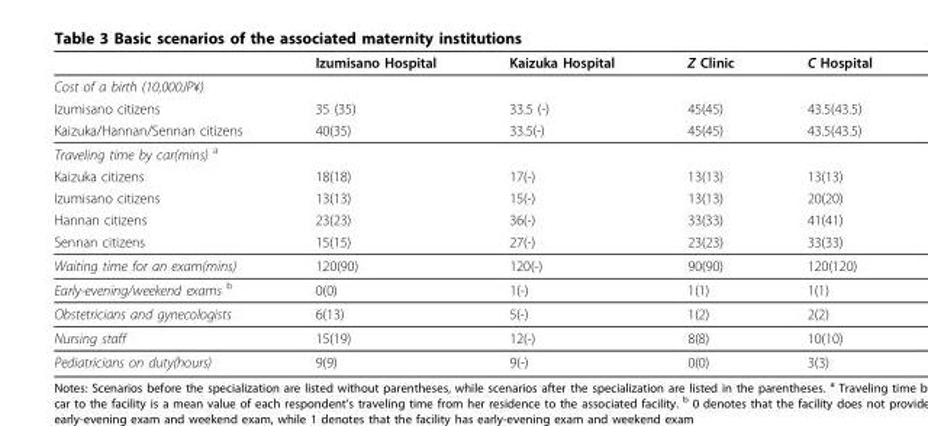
<table><thead><tr><td></td><td>Izumisano Hospital</td><td>Kaizuka Hospital</td><td>Z Clinic</td><td>C Hospital</td></tr></thead><tbody><tr><td colspan="5">Cost of a birth (10,000JP¥)</td></tr><tr><td>Izumisano citizens</td><td>35 (35)</td><td>33.5 (-)</td><td>45(45)</td><td>43.5(43.5)</td></tr><tr><td>Kaizuka/Hannan/Sennan citizens</td><td>40(35)</td><td>33.5(-)</td><td>45(45)</td><td>43.5(43.5)</td></tr><tr><td colspan="5">Traveling time by car(mins) <sup>a</sup></td></tr><tr><td>Kaizuka citizens</td><td>18(18)</td><td>17(-)</td><td>13(13)</td><td>13(13)</td></tr><tr><td>Izumisano citizens</td><td>13(13)</td><td>15(-)</td><td>13(13)</td><td>20(20)</td></tr><tr><td>Hannan citizens</td><td>23(23)</td><td>36(-)</td><td>33(33)</td><td>41(41)</td></tr><tr><td>Sennan citizens</td><td>15(15)</td><td>27(-)</td><td>23(23)</td><td>33(33)</td></tr><tr><td>Waiting time for an exam(mins)</td><td>120(90)</td><td>120(-)</td><td>90(90)</td><td>120(120)</td></tr><tr><td>Early-evening/weekend exams <sup>b</sup></td><td>0(0)</td><td>1(-)</td><td>1(1)</td><td>1(1)</td></tr><tr><td>Obstetricians and gynecologists</td><td>6(13)</td><td>5(-)</td><td>1(2)</td><td>2(2)</td></tr><tr><td>Nursing staff</td><td>15(19)</td><td>12(-)</td><td>8(8)</td><td>10(10)</td></tr><tr><td>Pediatricians on duty(hours)</td><td>9(9)</td><td>9(-)</td><td>0(0)</td><td>3(3)</td></tr></tbody></table>